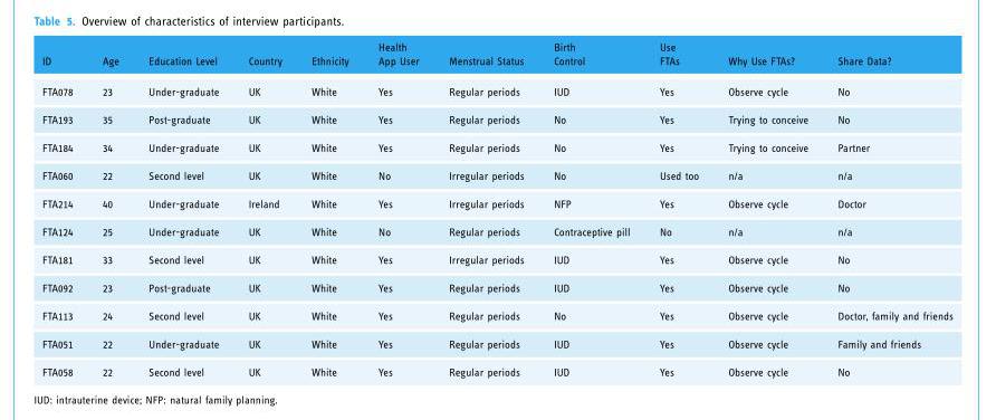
<table><thead><tr><td>ID</td><td>Age</td><td>Education Level</td><td>Country</td><td>Ethnicity</td><td>Health App User</td><td>Menstrual Status</td><td>Birth Control</td><td>Use FTAs</td><td>Why Use FTAs?</td><td>Share Data?</td></tr></thead><tbody><tr><td>FTA078</td><td>23</td><td>Under-graduate</td><td>UK</td><td>White</td><td>Yes</td><td>Regular periods</td><td>IUD</td><td>Yes</td><td>Observe cycle</td><td>No</td></tr><tr><td>FTA193</td><td>35</td><td>Post-graduate</td><td>UK</td><td>White</td><td>Yes</td><td>Regular periods</td><td>No</td><td>Yes</td><td>Trying to conceive</td><td>No</td></tr><tr><td>FTA184</td><td>34</td><td>Under-graduate</td><td>UK</td><td>White</td><td>Yes</td><td>Regular periods</td><td>No</td><td>Yes</td><td>Trying to conceive</td><td>Partner</td></tr><tr><td>FTA060</td><td>22</td><td>Second level</td><td>UK</td><td>White</td><td>No</td><td>Irregular periods</td><td>No</td><td>Used too</td><td>n/a</td><td>n/a</td></tr><tr><td>FTA214</td><td>40</td><td>Under-graduate</td><td>Ireland</td><td>White</td><td>Yes</td><td>Irregular periods</td><td>NFP</td><td>Yes</td><td>Observe cycle</td><td>Doctor</td></tr><tr><td>FTA124</td><td>25</td><td>Under-graduate</td><td>UK</td><td>White</td><td>No</td><td>Regular periods</td><td>Contraceptive pill</td><td>No</td><td>n/a</td><td>n/a</td></tr><tr><td>FTA181</td><td>33</td><td>Second level</td><td>UK</td><td>White</td><td>Yes</td><td>Irregular periods</td><td>IUD</td><td>Yes</td><td>Observe cycle</td><td>No</td></tr><tr><td>FTA092</td><td>23</td><td>Post-graduate</td><td>UK</td><td>White</td><td>Yes</td><td>Regular periods</td><td>IUD</td><td>Yes</td><td>Observe cycle</td><td>No</td></tr><tr><td>FTA113</td><td>24</td><td>Second level</td><td>UK</td><td>White</td><td>Yes</td><td>Regular periods</td><td>No</td><td>Yes</td><td>Observe cycle</td><td>Doctor, family and friends</td></tr><tr><td>FTA051</td><td>22</td><td>Under-graduate</td><td>UK</td><td>White</td><td>Yes</td><td>Regular periods</td><td>IUD</td><td>Yes</td><td>Observe cycle</td><td>Family and friends</td></tr><tr><td>FTA058</td><td>22</td><td>Second level</td><td>UK</td><td>White</td><td>Yes</td><td>Regular periods</td><td>IUD</td><td>Yes</td><td>Observe cycle</td><td>No</td></tr></tbody></table>